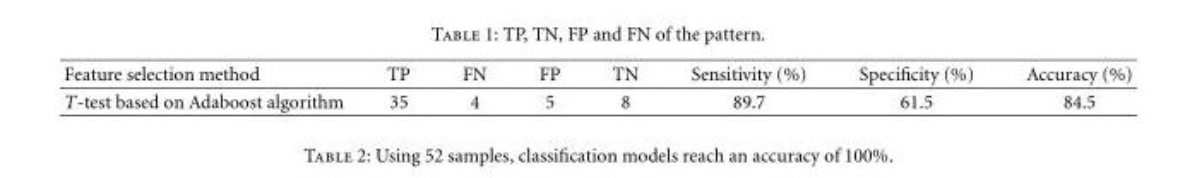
<table><thead><tr><td>Feature selection method</td><td>TP</td><td>FN</td><td>FP</td><td>TN</td><td>Sensitivity (%)</td><td>Specificity (%)</td><td>Accuracy (%)</td></tr></thead><tbody><tr><td>T-test based on Adaboost algorithm</td><td>35</td><td>4</td><td>5</td><td>8</td><td>89.7</td><td>61.5</td><td>84.5</td></tr></tbody></table>